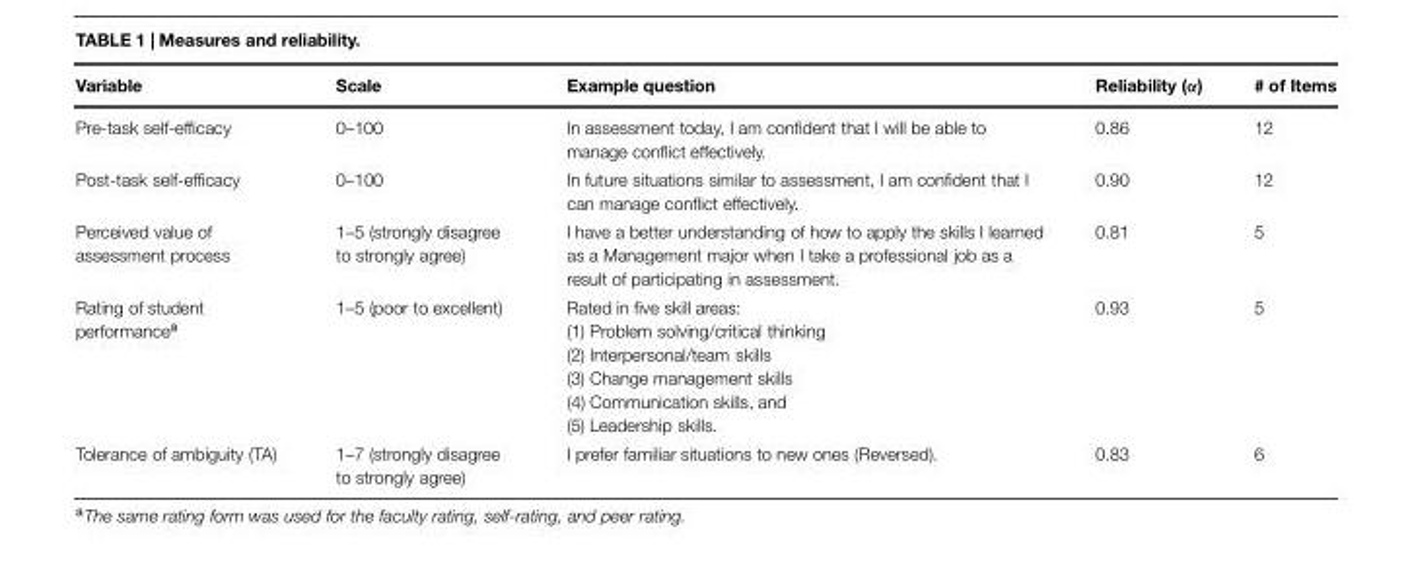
<table><thead><tr><td>Variable</td><td>Scale</td><td>Example question</td><td>Reliability (α)</td><td># of Items</td></tr></thead><tbody><tr><td>Pre-task self-efficacy</td><td>0–100</td><td>In assessment today, I am confident that I will be able to manage conflict effectively.</td><td>0.86</td><td>12</td></tr><tr><td>Post-task self-efficacy</td><td>0–100</td><td>In future situations similar to assessment, I am confident that I can manage conflict effectively.</td><td>0.90</td><td>12</td></tr><tr><td>Perceived value of assessment process</td><td>1–5 (strongly disagree to strongly agree)</td><td>I have a better understanding of how to apply the skills I learned as a Management major when I take a professional job as a result of participating in assessment.</td><td>0.81</td><td>5</td></tr><tr><td>Rating of student performance<sup>a</sup></td><td>1–5 (poor to excellent)</td><td>Rated in five skill areas: (1) Problem solving/critical thinking (2) Interpersonal/team skills (3) Change management skills (4) Communication skills, and (5) Leadership skills.</td><td>0.93</td><td>5</td></tr><tr><td>Tolerance of ambiguity (TA)</td><td>1–7 (strongly disagree to strongly agree)</td><td>I prefer familiar situations to new ones (Reversed).</td><td>0.83</td><td>6</td></tr></tbody></table>